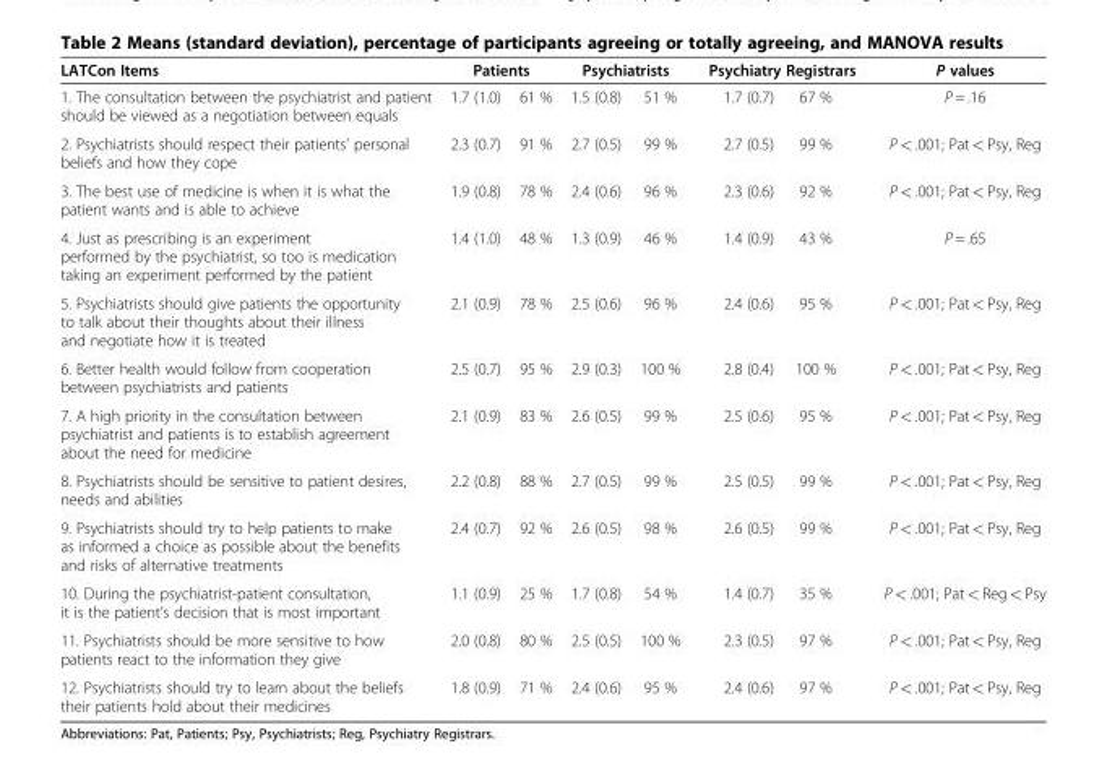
<table><thead><tr><td rowspan="2">LATCon Items 1. The consultation between the psychiatrist and patient should be viewed as a negotiation between equals</td><td colspan="2">Patients</td><td colspan="2">Psychiatrists</td><td colspan="2">Psychiatry Registrars</td><td rowspan="2">P values P = .16</td></tr><tr><td>1.7 (1.0)</td><td>61 %</td><td>1.5 (0.8)</td><td>51 %</td><td>1.7 (0.7)</td><td>67 %</td></tr></thead><tbody><tr><td>2. Psychiatrists should respect their patients’ personal beliefs and how they cope</td><td>2.3 (0.7)</td><td>91 %</td><td>2.7 (0.5)</td><td>99 %</td><td>2.7 (0.5)</td><td>99 %</td><td>P &lt; .001; Pat &lt; Psy, Reg</td></tr><tr><td>3. The best use of medicine is when it is what the patient wants and is able to achieve</td><td>1.9 (0.8)</td><td>78 %</td><td>2.4 (0.6)</td><td>96 %</td><td>2.3 (0.6)</td><td>92 %</td><td>P &lt; .001; Pat &lt; Psy, Reg</td></tr><tr><td>4. Just as prescribing is an experiment performed by the psychiatrist, so too is medication taking an experiment performed by the patient</td><td>1.4 (1.0)</td><td>48 %</td><td>1.3 (0.9)</td><td>46 %</td><td>1.4 (0.9)</td><td>43 %</td><td>P = .65</td></tr><tr><td>5. Psychiatrists should give patients the opportunity to talk about their thoughts about their illness and negotiate how it is treated</td><td>2.1 (0.9)</td><td>78 %</td><td>2.5 (0.6)</td><td>96 %</td><td>2.4 (0.6)</td><td>95 %</td><td>P &lt; .001; Pat &lt; Psy, Reg</td></tr><tr><td>6. Better health would follow from cooperation between psychiatrists and patients</td><td>2.5 (0.7)</td><td>95 %</td><td>2.9 (0.3)</td><td>100 %</td><td>2.8 (0.4)</td><td>100 %</td><td>P &lt; .001; Pat &lt; Psy, Reg</td></tr><tr><td>7. A high priority in the consultation between psychiatrist and patients is to establish agreement about the need for medicine</td><td>2.1 (0.9)</td><td>83 %</td><td>2.6 (0.5)</td><td>99 %</td><td>2.5 (0.6)</td><td>95 %</td><td>P &lt; .001; Pat &lt; Psy, Reg</td></tr><tr><td>8. Psychiatrists should be sensitive to patient desires, needs and abilities</td><td>2.2 (0.8)</td><td>88 %</td><td>2.7 (0.5)</td><td>99 %</td><td>2.5 (0.5)</td><td>99 %</td><td>P &lt; .001; Pat &lt; Psy, Reg</td></tr><tr><td>9. Psychiatrists should try to help patients to make as informed a choice as possible about the benefits and risks of alternative treatments</td><td>2.4 (0.7)</td><td>92 %</td><td>2.6 (0.5)</td><td>98 %</td><td>2.6 (0.5)</td><td>99 %</td><td>P &lt; .001; Pat &lt; Psy, Reg</td></tr><tr><td>10. During the psychiatrist-patient consultation, it is the patient’s decision that is most important</td><td>1.1 (0.9)</td><td>25 %</td><td>1.7 (0.8)</td><td>54 %</td><td>1.4 (0.7)</td><td>35 %</td><td>P &lt; .001; Pat &lt; Reg &lt; Psy</td></tr><tr><td>11. Psychiatrists should be more sensitive to how patients react to the information they give</td><td>2.0 (0.8)</td><td>80 %</td><td>2.5 (0.5)</td><td>100 %</td><td>2.3 (0.5)</td><td>97 %</td><td>P &lt; .001; Pat &lt; Psy, Reg</td></tr><tr><td>12. Psychiatrists should try to learn about the beliefs their patients hold about their medicines</td><td>1.8 (0.9)</td><td>71 %</td><td>2.4 (0.6)</td><td>95 %</td><td>2.4 (0.6)</td><td>97 %</td><td>P &lt; .001; Pat &lt; Psy, Reg</td></tr></tbody></table>